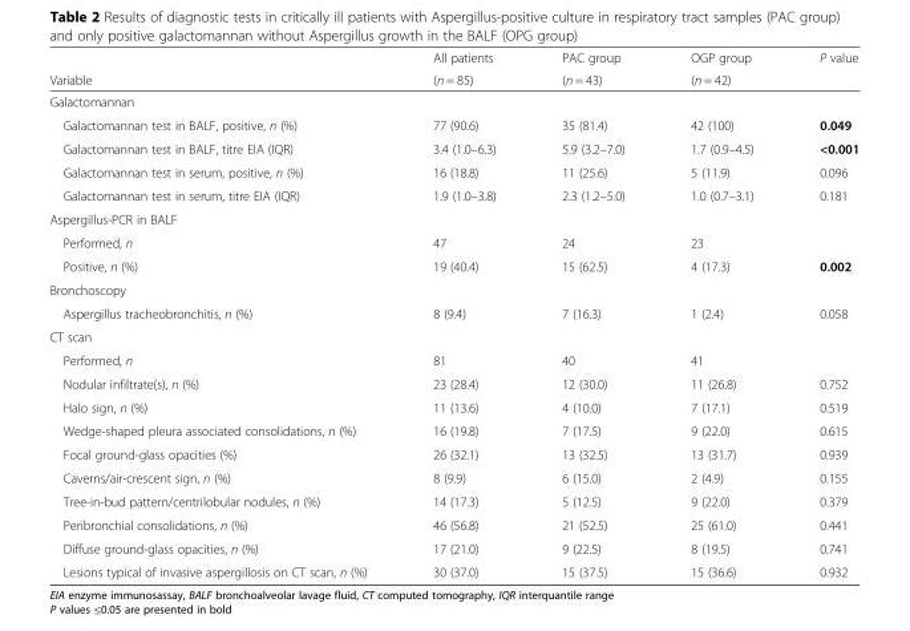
<table><thead><tr><td rowspan="2">Variable</td><td rowspan="2">All patients (n = 85)</td><td rowspan="2">PAC group (n = 43)</td><td rowspan="2">OGP group (n = 42)</td><td rowspan="2">P value</td></tr><tr></tr></thead><tbody><tr><td colspan="5">Galactomannan</td></tr><tr><td>Galactomannan test in BALF, positive, n (%)</td><td>77 (90.6)</td><td>35 (81.4)</td><td>42 (100)</td><td>0.049</td></tr><tr><td>Galactomannan test in BALF, titre EIA (IQR)</td><td>3.4 (1.0–6.3)</td><td>5.9 (3.2–7.0)</td><td>1.7 (0.9–4.5)</td><td>&lt;0.001</td></tr><tr><td>Galactomannan test in serum, positive, n (%)</td><td>16 (18.8)</td><td>11 (25.6)</td><td>5 (11.9)</td><td>0.096</td></tr><tr><td>Galactomannan test in serum, titre EIA (IQR)</td><td>1.9 (1.0–3.8)</td><td>2.3 (1.2–5.0)</td><td>1.0 (0.7–3.1)</td><td>0.181</td></tr><tr><td colspan="5">Aspergillus-PCR in BALF</td></tr><tr><td>Performed, n</td><td>47</td><td>24</td><td>23</td><td></td></tr><tr><td>Positive, n (%)</td><td>19 (40.4)</td><td>15 (62.5)</td><td>4 (17.3)</td><td>0.002</td></tr><tr><td colspan="5">Bronchoscopy</td></tr><tr><td>Aspergillus tracheobronchitis, n (%)</td><td>8 (9.4)</td><td>7 (16.3)</td><td>1 (2.4)</td><td>0.058</td></tr><tr><td colspan="5">CT scan</td></tr><tr><td>Performed, n</td><td>81</td><td>40</td><td>41</td><td></td></tr><tr><td>Nodular infiltrate(s), n (%)</td><td>23 (28.4)</td><td>12 (30.0)</td><td>11 (26.8)</td><td>0.752</td></tr><tr><td>Halo sign, n (%)</td><td>11 (13.6)</td><td>4 (10.0)</td><td>7 (17.1)</td><td>0.519</td></tr><tr><td>Wedge-shaped pleura associated consolidations, n (%)</td><td>16 (19.8)</td><td>7 (17.5)</td><td>9 (22.0)</td><td>0.615</td></tr><tr><td>Focal ground-glass opacities (%)</td><td>26 (32.1)</td><td>13 (32.5)</td><td>13 (31.7)</td><td>0.939</td></tr><tr><td>Caverns/air-crescent sign, n (%)</td><td>8 (9.9)</td><td>6 (15.0)</td><td>2 (4.9)</td><td>0.155</td></tr><tr><td>Tree-in-bud pattern/centrilobular nodules, n (%)</td><td>14 (17.3)</td><td>5 (12.5)</td><td>9 (22.0)</td><td>0.379</td></tr><tr><td>Peribronchial consolidations, n (%)</td><td>46 (56.8)</td><td>21 (52.5)</td><td>25 (61.0)</td><td>0.441</td></tr><tr><td>Diffuse ground-glass opacities, n (%)</td><td>17 (21.0)</td><td>9 (22.5)</td><td>8 (19.5)</td><td>0.741</td></tr><tr><td>Lesions typical of invasive aspergillosis on CT scan, n (%)</td><td>30 (37.0)</td><td>15 (37.5)</td><td>15 (36.6)</td><td>0.932</td></tr></tbody></table>